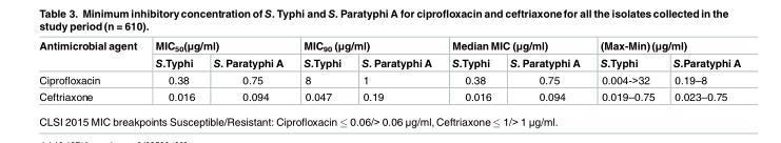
<table><thead><tr><td rowspan="2">Antimicrobial agent</td><td colspan="2">MIC<sub>50</sub>(μg/ml)</td><td colspan="2">MIC<sub>90</sub> (μg/ml)</td><td colspan="2">Median MIC (μg/ml)</td><td colspan="2">(Max-Min)(μg/ml)</td></tr><tr><td>S.Typhi</td><td>S. Paratyphi A</td><td>S.Typhi</td><td>S. Paratyphi A</td><td>S.Typhi</td><td>S. Paratyphi A</td><td>S.Typhi</td><td>S.Paratyphi A</td></tr></thead><tbody><tr><td>Ciprofloxacin</td><td>0.38</td><td>0.75</td><td>8</td><td>1</td><td>0.38</td><td>0.75</td><td>0.004-&gt;32</td><td>0.19–8</td></tr><tr><td>Ceftriaxone</td><td>0.016</td><td>0.094</td><td>0.047</td><td>0.19</td><td>0.016</td><td>0.094</td><td>0.019–0.75</td><td>0.023–0.75</td></tr></tbody></table>